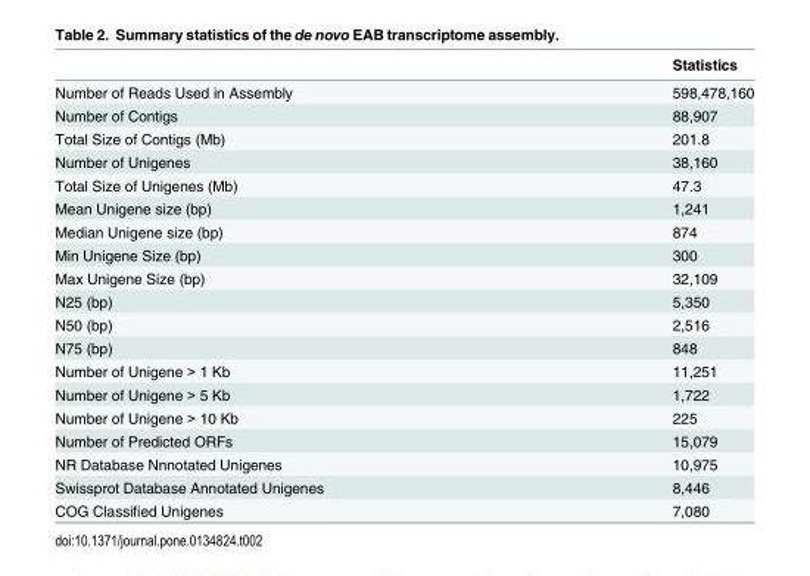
<table><thead><tr><td></td><td>Statistics</td></tr></thead><tbody><tr><td>Number of Reads Used in Assembly</td><td>598,478,160</td></tr><tr><td>Number of Contigs</td><td>88,907</td></tr><tr><td>Total Size of Contigs (Mb)</td><td>201.8</td></tr><tr><td>Number of Unigenes</td><td>38,160</td></tr><tr><td>Total Size of Unigenes (Mb)</td><td>47.3</td></tr><tr><td>Mean Unigene size (bp)</td><td>1,241</td></tr><tr><td>Median Unigene size (bp)</td><td>874</td></tr><tr><td>Min Unigene Size (bp)</td><td>300</td></tr><tr><td>Max Unigene Size (bp)</td><td>32,109</td></tr><tr><td>N25 (bp)</td><td>5,350</td></tr><tr><td>N50 (bp)</td><td>2,516</td></tr><tr><td>N75 (bp)</td><td>848</td></tr><tr><td>Number of Unigene &gt; 1 Kb</td><td>11,251</td></tr><tr><td>Number of Unigene &gt; 5 Kb</td><td>1,722</td></tr><tr><td>Number of Unigene &gt; 10 Kb</td><td>225</td></tr><tr><td>Number of Predicted ORFs</td><td>15,079</td></tr><tr><td>NR Database Nnnotated Unigenes</td><td>10,975</td></tr><tr><td>Swissprot Database Annotated Unigenes</td><td>8,446</td></tr><tr><td>COG Classified Unigenes</td><td>7,080</td></tr></tbody></table>